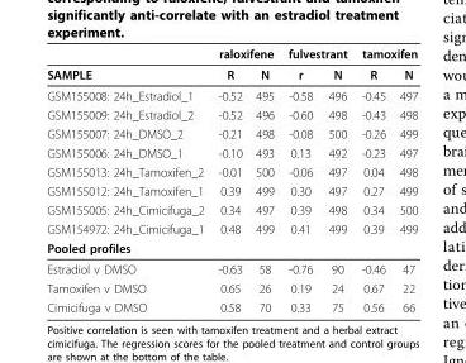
<table><thead><tr><td rowspan="2">SAMPLE</td><td colspan="2">raloxifene</td><td colspan="2">fulvestrant</td><td colspan="2">tamoxifen</td></tr><tr><td>R</td><td>N</td><td>r</td><td>N</td><td>R</td><td>N</td></tr></thead><tbody><tr><td>GSM155008: 24h_Estradiol_1</td><td>-0.52</td><td>495</td><td>-0.58</td><td>496</td><td>-0.45</td><td>497</td></tr><tr><td>GSM155009: 24h_Estradiol_2</td><td>-0.52</td><td>496</td><td>-0.60</td><td>498</td><td>-0.43</td><td>498</td></tr><tr><td>GSM155007: 24h_DMSO_2</td><td>-0.21</td><td>498</td><td>-0.08</td><td>500</td><td>-0.26</td><td>499</td></tr><tr><td>GSM155006: 24h_DMSO_1</td><td>-0.10</td><td>493</td><td>0.13</td><td>492</td><td>-0.23</td><td>497</td></tr><tr><td>GSM155013: 24h_Tamoxifen_2</td><td>-0.01</td><td>500</td><td>-0.06</td><td>497</td><td>0.04</td><td>498</td></tr><tr><td>GSM155012: 24h_Tamoxifen_1</td><td>0.39</td><td>499</td><td>0.30</td><td>497</td><td>0.27</td><td>499</td></tr><tr><td>GSM155005: 24h_Cimicifuga_2</td><td>0.34</td><td>497</td><td>0.39</td><td>498</td><td>0.34</td><td>500</td></tr><tr><td>GSM154972: 24h_Cimicifuga_1</td><td>0.48</td><td>499</td><td>0.41</td><td>499</td><td>0.39</td><td>499</td></tr><tr><td colspan="7">Pooled profiles</td></tr><tr><td>Estradiol v DMSO</td><td>-0.63</td><td>58</td><td>-0.76</td><td>90</td><td>-0.46</td><td>47</td></tr><tr><td>Tamoxifen v DMSO</td><td>0.65</td><td>26</td><td>0.19</td><td>24</td><td>0.67</td><td>22</td></tr><tr><td>Cimicifuga v DMSO</td><td>0.58</td><td>70</td><td>0.33</td><td>75</td><td>0.56</td><td>66</td></tr></tbody></table>